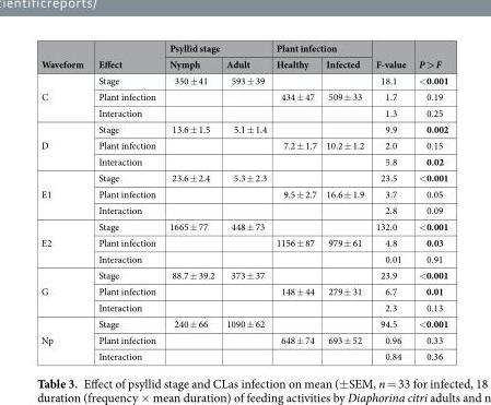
<table><thead><tr><td rowspan="2">Waveform</td><td rowspan="2">Effect</td><td colspan="2">Psyllid stage</td><td colspan="2">Plant infection</td><td rowspan="2">F-value</td><td rowspan="2">P &gt; F</td></tr><tr><td>Nymph</td><td>Adult</td><td>Healthy</td><td>Infected</td></tr></thead><tbody><tr><td rowspan="3">C</td><td>Stage</td><td>350 ± 41</td><td>593 ± 39</td><td></td><td></td><td>18.1</td><td>&lt;0.001</td></tr><tr><td>Plant infection</td><td></td><td></td><td>434 ± 47</td><td>509 ± 33</td><td>1.7</td><td>0.19</td></tr><tr><td>Interaction</td><td></td><td></td><td></td><td></td><td>1.3</td><td>0.25</td></tr><tr><td rowspan="3">D</td><td>Stage</td><td>13.6 ± 1.5</td><td>5.1 ± 1.4</td><td></td><td></td><td>9.9</td><td>0.002</td></tr><tr><td>Plant infection</td><td></td><td></td><td>7.2 ± 1.7</td><td>10.2 ± 1.2</td><td>2.0</td><td>0.15</td></tr><tr><td>Interaction</td><td></td><td></td><td></td><td></td><td>5.8</td><td>0.02</td></tr><tr><td rowspan="3">E1</td><td>Stage</td><td>23.6 ± 2.4</td><td>5.3 ± 2.3</td><td></td><td></td><td>23.5</td><td>&lt;0.001</td></tr><tr><td>Plant infection</td><td></td><td></td><td>9.5 ± 2.7</td><td>16.6 ± 1.9</td><td>3.7</td><td>0.05</td></tr><tr><td>Interaction</td><td></td><td></td><td></td><td></td><td>2.8</td><td>0.09</td></tr><tr><td rowspan="3">E2</td><td>Stage</td><td>1665 ± 77</td><td>448 ± 73</td><td></td><td></td><td>132.0</td><td>&lt;0.001</td></tr><tr><td>Plant infection</td><td></td><td></td><td>1156 ± 87</td><td>979 ± 61</td><td>4.8</td><td>0.03</td></tr><tr><td>Interaction</td><td></td><td></td><td></td><td></td><td>0.01</td><td>0.91</td></tr><tr><td rowspan="3">G</td><td>Stage</td><td>88.7 ± 39.2</td><td>373 ± 37</td><td></td><td></td><td>23.9</td><td>&lt;0.001</td></tr><tr><td>Plant infection</td><td></td><td></td><td>148 ± 44</td><td>279 ± 31</td><td>6.7</td><td>0.01</td></tr><tr><td>Interaction</td><td></td><td></td><td></td><td></td><td>2.3</td><td>0.13</td></tr><tr><td rowspan="3">Np</td><td>Stage</td><td>240 ± 66</td><td>1090 ± 62</td><td></td><td></td><td>94.5</td><td>&lt;0.001</td></tr><tr><td>Plant infection</td><td></td><td></td><td>648 ± 74</td><td>693 ± 52</td><td>0.96</td><td>0.33</td></tr><tr><td>Interaction</td><td></td><td></td><td></td><td></td><td>0.84</td><td>0.36</td></tr></tbody></table>